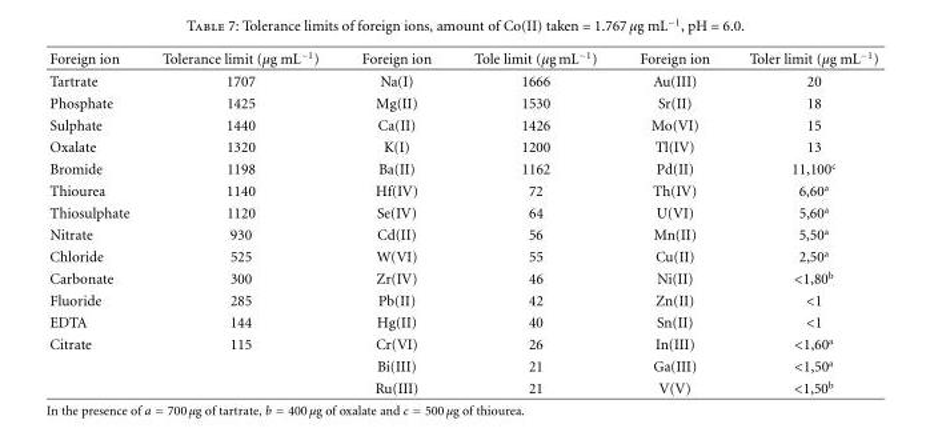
<table><thead><tr><td>Foreign ion</td><td>Tolerance limit (μg mL<sup>−1</sup>)</td><td>Foreign ion</td><td>Tole limit (μg mL<sup>−1</sup>)</td><td>Foreign ion</td><td>Toler limit (μg mL<sup>−1</sup>)</td></tr></thead><tbody><tr><td>Tartrate</td><td>1707</td><td>Na(I)</td><td>1666</td><td>Au(III)</td><td>20</td></tr><tr><td>Phosphate</td><td>1425</td><td>Mg(II)</td><td>1530</td><td>Sr(II)</td><td>18</td></tr><tr><td>Sulphate</td><td>1440</td><td>Ca(II)</td><td>1426</td><td>Mo(VI)</td><td>15</td></tr><tr><td>Oxalate</td><td>1320</td><td>K(I)</td><td>1200</td><td>Tl(IV)</td><td>13</td></tr><tr><td>Bromide</td><td>1198</td><td>Ba(II)</td><td>1162</td><td>Pd(II)</td><td>11,100<sup>c</sup></td></tr><tr><td>Thiourea</td><td>1140</td><td>Hf(IV)</td><td>72</td><td>Th(IV)</td><td>6,60<sup>a</sup></td></tr><tr><td>Thiosulphate</td><td>1120</td><td>Se(IV)</td><td>64</td><td>U(VI)</td><td>5,60<sup>a</sup></td></tr><tr><td>Nitrate</td><td>930</td><td>Cd(II)</td><td>56</td><td>Mn(II)</td><td>5,50<sup>a</sup></td></tr><tr><td>Chloride</td><td>525</td><td>W(VI)</td><td>55</td><td>Cu(II)</td><td>2,50<sup>a</sup></td></tr><tr><td>Carbonate</td><td>300</td><td>Zr(IV)</td><td>46</td><td>Ni(II)</td><td>&lt;1,80<sup>b</sup></td></tr><tr><td>Fluoride</td><td>285</td><td>Pb(II)</td><td>42</td><td>Zn(II)</td><td>&lt;1</td></tr><tr><td>EDTA</td><td>144</td><td>Hg(II)</td><td>40</td><td>Sn(II)</td><td>&lt;1</td></tr><tr><td rowspan="3">Citrate</td><td>115</td><td>Cr(VI)</td><td>26</td><td>In(III)</td><td>&lt;1,60<sup>a</sup></td></tr><tr><td></td><td>Bi(III)</td><td>21</td><td>Ga(III)</td><td>&lt;1,50<sup>a</sup></td></tr><tr><td></td><td>Ru(III)</td><td>21</td><td>V(V)</td><td>&lt;1,50<sup>b</sup></td></tr></tbody></table>